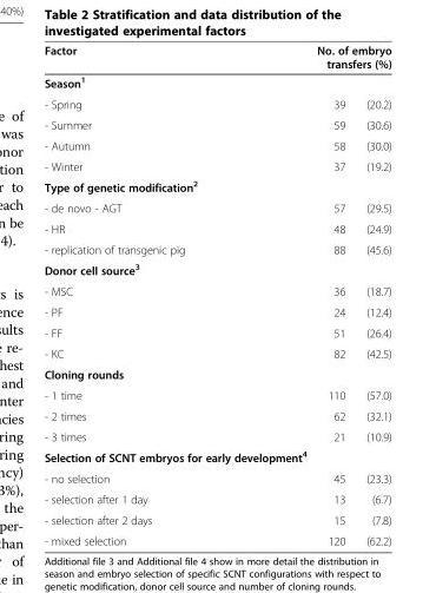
<table><thead><tr><td rowspan="2">Factor Season<sup>1</sup></td><td colspan="2">No. of embryo transfers (%)</td></tr><tr><td></td><td></td></tr></thead><tbody><tr><td>- Spring</td><td>39</td><td>(20.2)</td></tr><tr><td>- Summer</td><td>59</td><td>(30.6)</td></tr><tr><td>- Autumn</td><td>58</td><td>(30.0)</td></tr><tr><td>- Winter</td><td>37</td><td>(19.2)</td></tr><tr><td colspan="3">Type of genetic modification<sup>2</sup></td></tr><tr><td>- de novo - AGT</td><td>57</td><td>(29.5)</td></tr><tr><td>- HR</td><td>48</td><td>(24.9)</td></tr><tr><td>- replication of transgenic pig</td><td>88</td><td>(45.6)</td></tr><tr><td colspan="3">Donor cell source<sup>3</sup></td></tr><tr><td>- MSC</td><td>36</td><td>(18.7)</td></tr><tr><td>- PF</td><td>24</td><td>(12.4)</td></tr><tr><td>- FF</td><td>51</td><td>(26.4)</td></tr><tr><td>- KC</td><td>82</td><td>(42.5)</td></tr><tr><td colspan="3">Cloning rounds</td></tr><tr><td>- 1 time</td><td>110</td><td>(57.0)</td></tr><tr><td>- 2 times</td><td>62</td><td>(32.1)</td></tr><tr><td>- 3 times</td><td>21</td><td>(10.9)</td></tr><tr><td colspan="3">Selection of SCNT embryos for early development<sup>4</sup></td></tr><tr><td>- no selection</td><td>45</td><td>(23.3)</td></tr><tr><td>- selection after 1 day</td><td>13</td><td>(6.7)</td></tr><tr><td>- selection after 2 days</td><td>15</td><td>(7.8)</td></tr><tr><td>- mixed selection</td><td>120</td><td>(62.2)</td></tr></tbody></table>